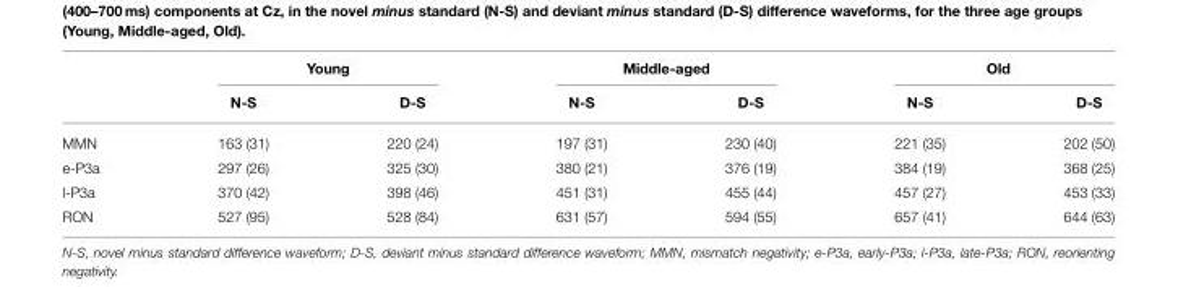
<table><thead><tr><td rowspan="2"></td><td colspan="2">Young</td><td colspan="2">Middle-aged</td><td colspan="2">Old</td></tr><tr><td>N-S</td><td>D-S</td><td>N-S</td><td>D-S</td><td>N-S</td><td>D-S</td></tr></thead><tbody><tr><td>MMN</td><td>163 (31)</td><td>220 (24)</td><td>197 (31)</td><td>230 (40)</td><td>221 (35)</td><td>202 (50)</td></tr><tr><td>e-P3a</td><td>297 (26)</td><td>325 (30)</td><td>380 (21)</td><td>376 (19)</td><td>384 (19)</td><td>368 (25)</td></tr><tr><td>l-P3a</td><td>370 (42)</td><td>398 (46)</td><td>451 (31)</td><td>455 (44)</td><td>457 (27)</td><td>453 (33)</td></tr><tr><td>RON</td><td>527 (95)</td><td>528 (84)</td><td>631 (57)</td><td>594 (55)</td><td>657 (41)</td><td>644 (63)</td></tr></tbody></table>